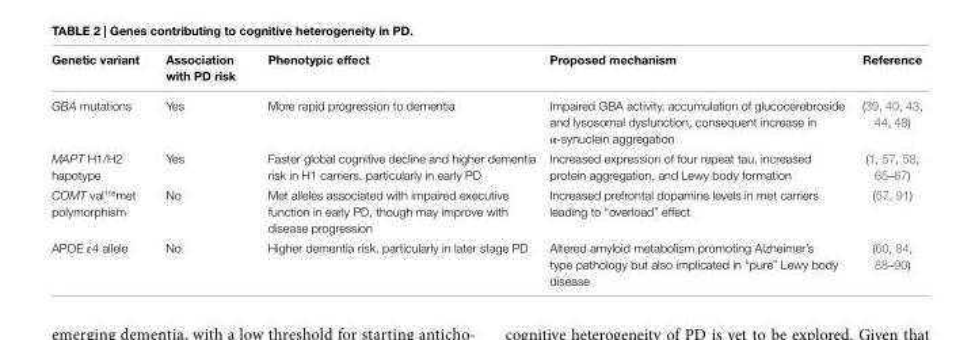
<table><thead><tr><td>Genetic variant</td><td>Association with PD risk</td><td>Phenotypic effect</td><td>Proposed mechanism</td><td>Reference</td></tr></thead><tbody><tr><td>GBA mutations</td><td>Yes</td><td>More rapid progression to dementia</td><td>Impaired GBA activity, accumulation of glucocerebroside and lysosomal dysfunction, consequent increase in α-synuclein aggregation</td><td>(39, 40, 43, 44, 48)</td></tr><tr><td>MAPT H1/H2 hapotype</td><td>Yes</td><td>Faster global cognitive decline and higher dementia risk in H1 carriers, particularly in early PD</td><td>Increased expression of four repeat tau, increased protein aggregation, and Lewy body formation</td><td>(1, 57, 58, 65–67)</td></tr><tr><td>COMT val<sup>158</sup>met polymorphism</td><td>No</td><td>Met alleles associated with impaired executive function in early PD, though may improve with disease progression</td><td>Increased prefrontal dopamine levels in met carriers leading to “overload” effect</td><td>(57, 91)</td></tr><tr><td>APOE ɛ4 allele</td><td>No</td><td>Higher dementia risk, particularly in later stage PD</td><td>Altered amyloid metabolism promoting Alzheimer’s type pathology but also implicated in “pure” Lewy body disease</td><td>(60, 84, 88–90)</td></tr></tbody></table>